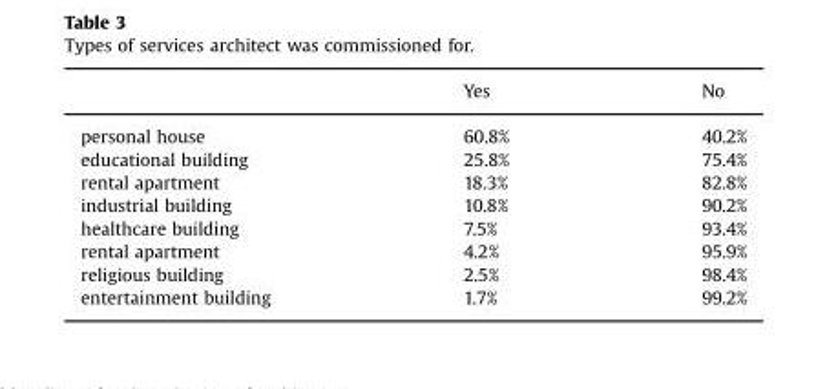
<table><thead><tr><td></td><td>Yes</td><td>No</td></tr></thead><tbody><tr><td>personal house</td><td>60.8%</td><td>40.2%</td></tr><tr><td>educational building</td><td>25.8%</td><td>75.4%</td></tr><tr><td>rental apartment</td><td>18.3%</td><td>82.8%</td></tr><tr><td>industrial building</td><td>10.8%</td><td>90.2%</td></tr><tr><td>healthcare building</td><td>7.5%</td><td>93.4%</td></tr><tr><td>rental apartment</td><td>4.2%</td><td>95.9%</td></tr><tr><td>religious building</td><td>2.5%</td><td>98.4%</td></tr><tr><td>entertainment building</td><td>1.7%</td><td>99.2%</td></tr></tbody></table>